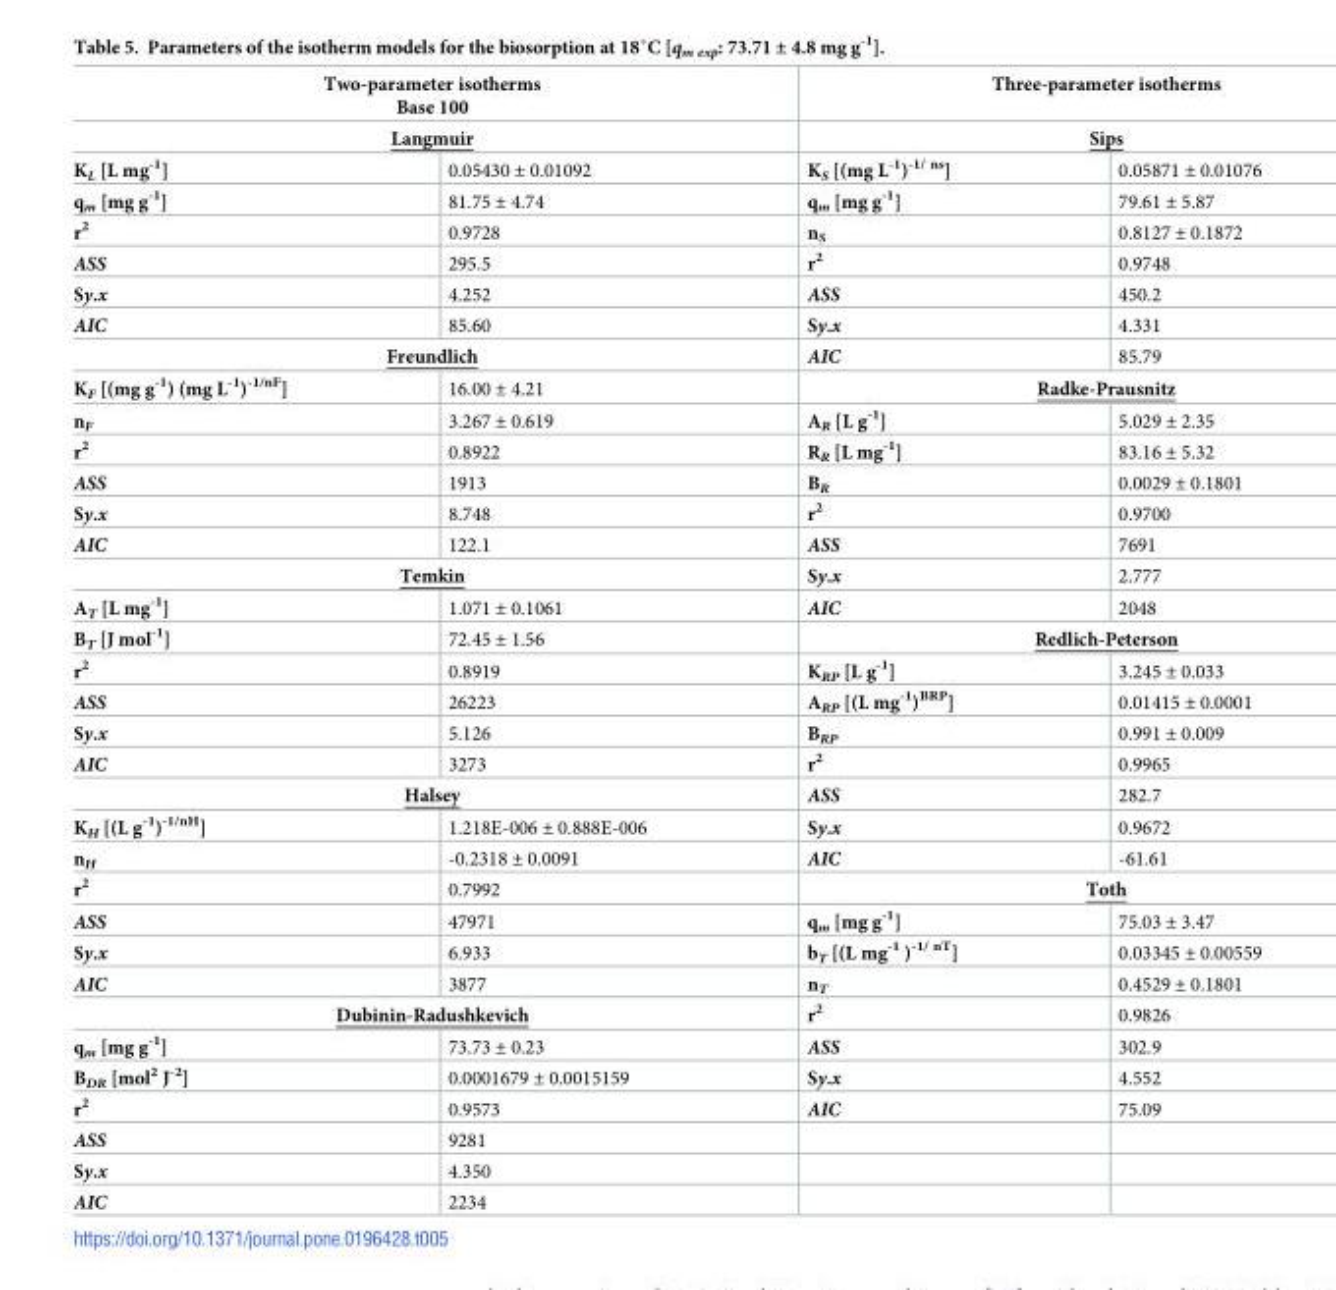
<table><thead><tr><td rowspan="2" colspan="2">Two-parameter isotherms Base 100 Langmuir</td><td rowspan="2" colspan="2">Three-parameter isotherms Sips</td></tr><tr></tr><tr><td>K<sub>L</sub> [L mg<sup>-1</sup>]</td><td>0.05430 ± 0.01092</td><td>K<sub>S</sub> [(mg L<sup>-1</sup>)<sup>-1/ ns</sup>]</td><td>0.05871 ± 0.01076</td></tr></thead><tbody><tr><td>q<sub>m</sub> [mg g<sup>-1</sup>]</td><td>81.75 ± 4.74</td><td>q<sub>m</sub> [mg g<sup>-1</sup>]</td><td>79.61 ± 5.87</td></tr><tr><td>r<sup>2</sup></td><td>0.9728</td><td>n<sub>S</sub></td><td>0.8127 ± 0.1872</td></tr><tr><td>ASS</td><td>295.5</td><td>r<sup>2</sup></td><td>0.9748</td></tr><tr><td>Sy.x</td><td>4.252</td><td>ASS</td><td>450.2</td></tr><tr><td>AIC</td><td>85.60</td><td>Sy.x</td><td>4.331</td></tr><tr><td colspan="2">Freundlich</td><td>AIC</td><td>85.79</td></tr><tr><td>K<sub>F</sub> [(mg g<sup>-1</sup>) (mg L<sup>-1</sup>)<sup>-1/nF</sup>]</td><td>16.00 ± 4.21</td><td colspan="2">Radke-Prausnitz</td></tr><tr><td>n<sub>F</sub></td><td>3.267 ± 0.619</td><td>A<sub>R</sub> [L g<sup>-1</sup>]</td><td>5.029 ± 2.35</td></tr><tr><td>r<sup>2</sup></td><td>0.8922</td><td>R<sub>R</sub> [L mg<sup>-1</sup>]</td><td>83.16 ± 5.32</td></tr><tr><td>ASS</td><td>1913</td><td>B<sub>R</sub></td><td>0.0029 ± 0.1801</td></tr><tr><td>Sy.x</td><td>8.748</td><td>r<sup>2</sup></td><td>0.9700</td></tr><tr><td>AIC</td><td>122.1</td><td>ASS</td><td>7691</td></tr><tr><td colspan="2">Temkin</td><td>Sy.x</td><td>2.777</td></tr><tr><td>A<sub>T</sub> [L mg<sup>-1</sup>]</td><td>1.071 ± 0.1061</td><td>AIC</td><td>2048</td></tr><tr><td>B<sub>T</sub> [J mol<sup>-1</sup>]</td><td>72.45 ± 1.56</td><td colspan="2">Redlich-Peterson</td></tr><tr><td>r<sup>2</sup></td><td>0.8919</td><td>K<sub>RP</sub> [L g<sup>-1</sup>]</td><td>3.245 ± 0.033</td></tr><tr><td>ASS</td><td>26223</td><td>A<sub>RP</sub> [(L mg<sup>-1</sup>)<sup>BRP</sup>]</td><td>0.01415 ± 0.0001</td></tr><tr><td>Sy.x</td><td>5.126</td><td>B<sub>RP</sub></td><td>0.991 ± 0.009</td></tr><tr><td>AIC</td><td>3273</td><td>r<sup>2</sup></td><td>0.9965</td></tr><tr><td colspan="2">Halsey</td><td>ASS</td><td>282.7</td></tr><tr><td>K<sub>H</sub> [(L g<sup>-1</sup>)<sup>-1/nH</sup>]</td><td>1.218E-006 ± 0.888E-006</td><td>Sy.x</td><td>0.9672</td></tr><tr><td>n<sub>H</sub></td><td>-0.2318 ± 0.0091</td><td>AIC</td><td>-61.61</td></tr><tr><td>r<sup>2</sup></td><td>0.7992</td><td colspan="2">Toth</td></tr><tr><td>ASS</td><td>47971</td><td>q<sub>m</sub> [mg g<sup>-1</sup>]</td><td>75.03 ± 3.47</td></tr><tr><td>Sy.x</td><td>6.933</td><td>b<sub>T</sub> [(L mg<sup>-1</sup> )<sup>-1/ nT</sup>]</td><td>0.03345 ± 0.00559</td></tr><tr><td>AIC</td><td>3877</td><td>n<sub>T</sub></td><td>0.4529 ± 0.1801</td></tr><tr><td colspan="2">Dubinin-Radushkevich</td><td>r<sup>2</sup></td><td>0.9826</td></tr><tr><td>q<sub>m</sub> [mg g<sup>-1</sup>]</td><td>73.73 ± 0.23</td><td>ASS</td><td>302.9</td></tr><tr><td>B<sub>DR</sub> [mol<sup>2</sup> J<sup>-2</sup>]</td><td>0.0001679 ± 0.0015159</td><td>Sy.x</td><td>4.552</td></tr><tr><td>r<sup>2</sup></td><td>0.9573</td><td>AIC</td><td>75.09</td></tr><tr><td>ASS</td><td>9281</td><td></td><td></td></tr><tr><td>Sy.x</td><td>4.350</td><td></td><td></td></tr><tr><td>AIC</td><td>2234</td><td></td><td></td></tr></tbody></table>